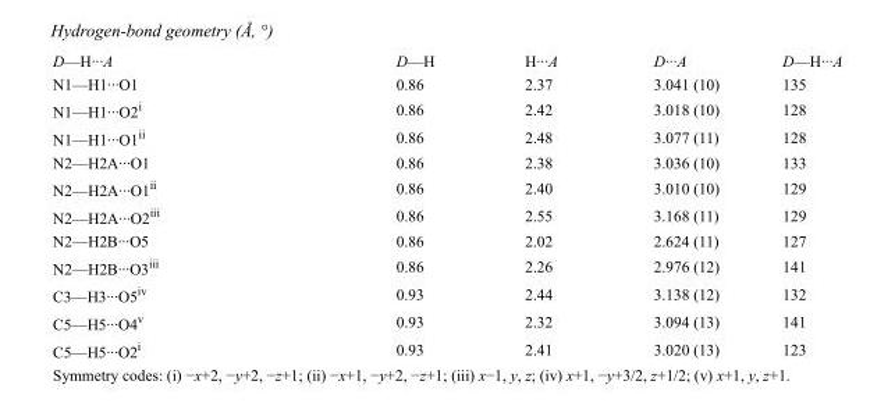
<table><tbody><tr><td>D—H···A</td><td>D—H</td><td>H···A</td><td>D···A</td><td>D—H···A</td></tr><tr><td>N1—H1···O1</td><td>0.86</td><td>2.37</td><td>3.041 (10)</td><td>135</td></tr><tr><td>N1—H1···O2<sup>i</sup></td><td>0.86</td><td>2.42</td><td>3.018 (10)</td><td>128</td></tr><tr><td>N1—H1···O1<sup>ii</sup></td><td>0.86</td><td>2.48</td><td>3.077 (11)</td><td>128</td></tr><tr><td>N2—H2A···O1</td><td>0.86</td><td>2.38</td><td>3.036 (10)</td><td>133</td></tr><tr><td>N2—H2A···O1<sup>ii</sup></td><td>0.86</td><td>2.40</td><td>3.010 (10)</td><td>129</td></tr><tr><td>N2—H2A···O2<sup>iii</sup></td><td>0.86</td><td>2.55</td><td>3.168 (11)</td><td>129</td></tr><tr><td>N2—H2B···O5</td><td>0.86</td><td>2.02</td><td>2.624 (11)</td><td>127</td></tr><tr><td>N2—H2B···O3<sup>iii</sup></td><td>0.86</td><td>2.26</td><td>2.976 (12)</td><td>141</td></tr><tr><td>C3—H3···O5<sup>iv</sup></td><td>0.93</td><td>2.44</td><td>3.138 (12)</td><td>132</td></tr><tr><td>C5—H5···O4<sup>v</sup></td><td>0.93</td><td>2.32</td><td>3.094 (13)</td><td>141</td></tr><tr><td>C5—H5···O2<sup>i</sup></td><td>0.93</td><td>2.41</td><td>3.020 (13)</td><td>123</td></tr></tbody></table>